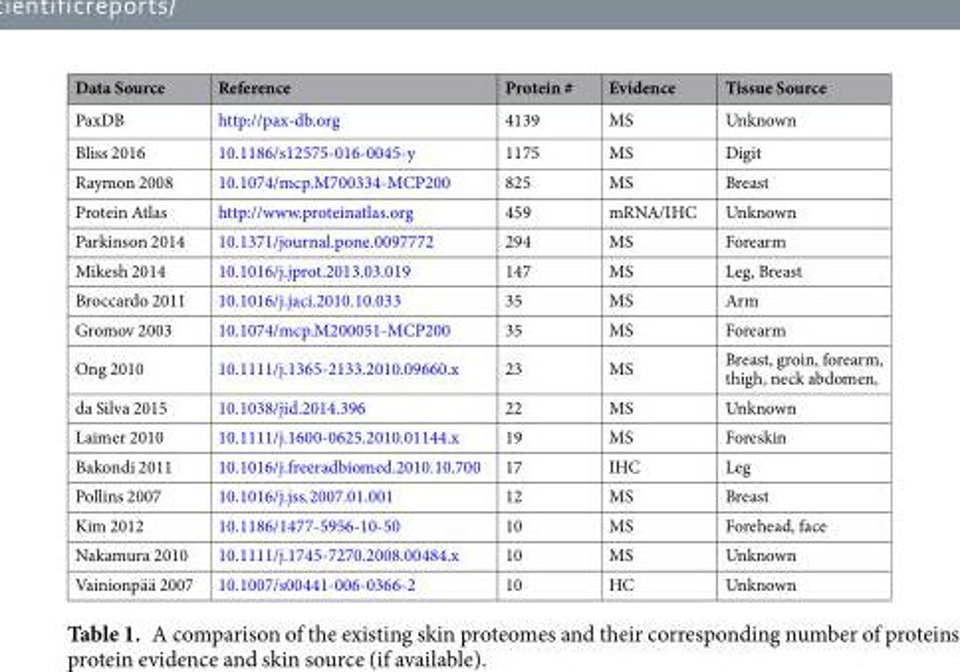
<table><thead><tr><td>Data Source</td><td>Reference</td><td>Protein #</td><td>Evidence</td><td>Tissue Source</td></tr></thead><tbody><tr><td>PaxDB</td><td>http://pax-db.org</td><td>4139</td><td>MS</td><td>Unknown</td></tr><tr><td>Bliss 2016</td><td>10.1186/s12575-016-0045-y</td><td>1175</td><td>MS</td><td>Digit</td></tr><tr><td>Raymon 2008</td><td>10.1074/mcp.M700334-MCP200</td><td>825</td><td>MS</td><td>Breast</td></tr><tr><td>Protein Atlas</td><td>http://www.proteinatlas.org</td><td>459</td><td>mRNA/IHC</td><td>Unknown</td></tr><tr><td>Parkinson 2014</td><td>10.1371/journal.pone.0097772</td><td>294</td><td>MS</td><td>Forearm</td></tr><tr><td>Mikesh 2014</td><td>10.1016/j.jprot.2013.03.019</td><td>147</td><td>MS</td><td>Leg, Breast</td></tr><tr><td>Broccardo 2011</td><td>10.1016/j.jaci.2010.10.033</td><td>35</td><td>MS</td><td>Arm</td></tr><tr><td>Gromov 2003</td><td>10.1074/mcp.M200051-MCP200</td><td>35</td><td>MS</td><td>Forearm</td></tr><tr><td>Ong 2010</td><td>10.1111/j.1365-2133.2010.09660.x</td><td>23</td><td>MS</td><td>Breast, groin, forearm, thigh, neck abdomen,</td></tr><tr><td>da Silva 2015</td><td>10.1038/jid.2014.396</td><td>22</td><td>MS</td><td>Unknown</td></tr><tr><td>Laimer 2010</td><td>10.1111/j.1600-0625.2010.01144.x</td><td>19</td><td>MS</td><td>Foreskin</td></tr><tr><td>Bakondi 2011</td><td>10.1016/j.freeradbiomed.2010.10.700</td><td>17</td><td>IHC</td><td>Leg</td></tr><tr><td>Pollins 2007</td><td>10.1016/j.jss.2007.01.001</td><td>12</td><td>MS</td><td>Breast</td></tr><tr><td>Kim 2012</td><td>10.1186/1477-5956-10-50</td><td>10</td><td>MS</td><td>Forehead, face</td></tr><tr><td>Nakamura 2010</td><td>10.1111/j.1745-7270.2008.00484.x</td><td>10</td><td>MS</td><td>Unknown</td></tr><tr><td>Vainionpää 2007</td><td>10.1007/s00441-006-0366-2</td><td>10</td><td>HC</td><td>Unknown</td></tr></tbody></table>